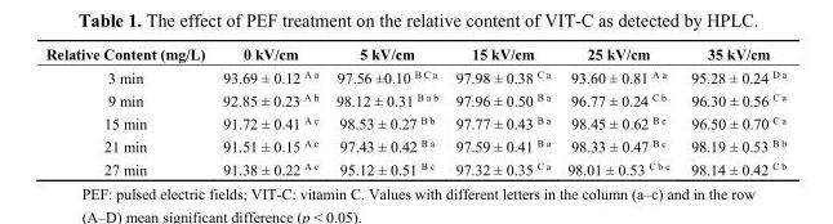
<table><thead><tr><td>Relative Content (mg/L)</td><td>0 kV/cm</td><td>5 kV/cm</td><td>15 kV/cm</td><td>25 kV/cm</td><td>35 kV/cm</td></tr></thead><tbody><tr><td>3 min</td><td>93.69 ± 0.12 <sup>A a</sup></td><td>97.56 ±0.10 <sup>B C a</sup></td><td>97.98 ± 0.38 <sup>C a</sup></td><td>93.60 ± 0.81 <sup>A a</sup></td><td>95.28 ± 0.24 <sup>D a</sup></td></tr><tr><td>9 min</td><td>92.85 ± 0.23 <sup>A b</sup></td><td>98.12 ± 0.31 <sup>B a b</sup></td><td>97.96 ± 0.50 <sup>B a</sup></td><td>96.77 ± 0.24 <sup>C b</sup></td><td>96.30 ± 0.56 <sup>C a</sup></td></tr><tr><td>15 min</td><td>91.72 ± 0.41 <sup>A c</sup></td><td>98.53 ± 0.27 <sup>B b</sup></td><td>97.77 ± 0.43 <sup>B a</sup></td><td>98.45 ± 0.62 <sup>B c</sup></td><td>96.50 ± 0.70 <sup>C a</sup></td></tr><tr><td>21 min</td><td>91.51 ± 0.15 <sup>A c</sup></td><td>97.43 ± 0.42 <sup>B a</sup></td><td>97.59 ± 0.41 <sup>B a</sup></td><td>98.33 ± 0.47 <sup>B c</sup></td><td>98.19 ± 0.53 <sup>B b</sup></td></tr><tr><td>27 min</td><td>91.38 ± 0.22 <sup>A c</sup></td><td>95.12 ± 0.51 <sup>B c</sup></td><td>97.32 ± 0.35 <sup>C a</sup></td><td>98.01 ± 0.53 <sup>C b c</sup></td><td>98.14 ± 0.42 <sup>C b</sup></td></tr></tbody></table>